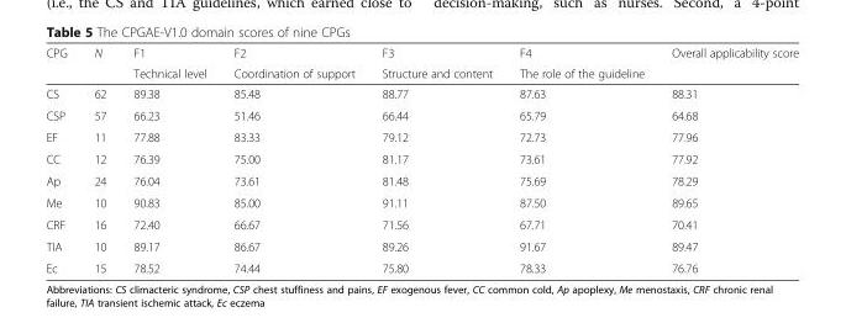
<table><thead><tr><td rowspan="2">CPG</td><td rowspan="2">N</td><td rowspan="2">F1 Technical level</td><td rowspan="2">F2 Coordination of support</td><td rowspan="2">F3 Structure and content</td><td rowspan="2">F4 The role of the guideline</td><td rowspan="2">Overall applicability score</td></tr><tr></tr></thead><tbody><tr><td>CS</td><td>62</td><td>89.38</td><td>85.48</td><td>88.77</td><td>87.63</td><td>88.31</td></tr><tr><td>CSP</td><td>57</td><td>66.23</td><td>51.46</td><td>66.44</td><td>65.79</td><td>64.68</td></tr><tr><td>EF</td><td>11</td><td>77.88</td><td>83.33</td><td>79.12</td><td>72.73</td><td>77.96</td></tr><tr><td>CC</td><td>12</td><td>76.39</td><td>75.00</td><td>81.17</td><td>73.61</td><td>77.92</td></tr><tr><td>Ap</td><td>24</td><td>76.04</td><td>73.61</td><td>81.48</td><td>75.69</td><td>78.29</td></tr><tr><td>Me</td><td>10</td><td>90.83</td><td>85.00</td><td>91.11</td><td>87.50</td><td>89.65</td></tr><tr><td>CRF</td><td>16</td><td>72.40</td><td>66.67</td><td>71.56</td><td>67.71</td><td>70.41</td></tr><tr><td>TIA</td><td>10</td><td>89.17</td><td>86.67</td><td>89.26</td><td>91.67</td><td>89.47</td></tr><tr><td>Ec</td><td>15</td><td>78.52</td><td>74.44</td><td>75.80</td><td>78.33</td><td>76.76</td></tr></tbody></table>